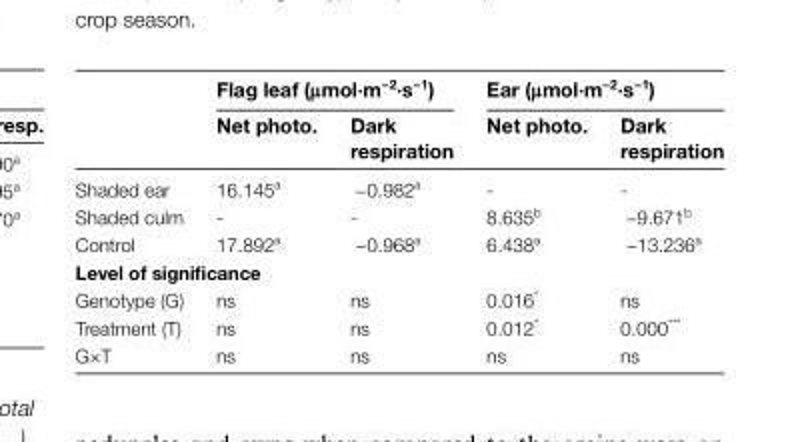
<table><thead><tr><td rowspan="2"></td><td colspan="2">Flag leaf (μmol·m<sup>−2</sup>·s<sup>−1</sup>)</td><td colspan="2">Ear (μmol·m<sup>−2</sup>·s<sup>−1</sup>)</td></tr><tr><td>Net photo.</td><td>Dark respiration</td><td>Net photo.</td><td>Dark respiration</td></tr></thead><tbody><tr><td>Shaded ear</td><td>16.145<sup>a</sup></td><td>−0.982<sup>a</sup></td><td>-</td><td>-</td></tr><tr><td>Shaded culm</td><td>-</td><td>-</td><td>8.635<sup>b</sup></td><td>−9.671<sup>b</sup></td></tr><tr><td>Control</td><td>17.892<sup>a</sup></td><td>−0.968<sup>a</sup></td><td>6.438<sup>a</sup></td><td>−13.236<sup>a</sup></td></tr><tr><td colspan="5">Level of significance</td></tr><tr><td>Genotype (G)</td><td>ns</td><td>ns</td><td>0.016*</td><td>ns</td></tr><tr><td>Treatment (T)</td><td>ns</td><td>ns</td><td>0.012*</td><td>0.000***</td></tr><tr><td>G×T</td><td>ns</td><td>ns</td><td>ns</td><td>ns</td></tr></tbody></table>